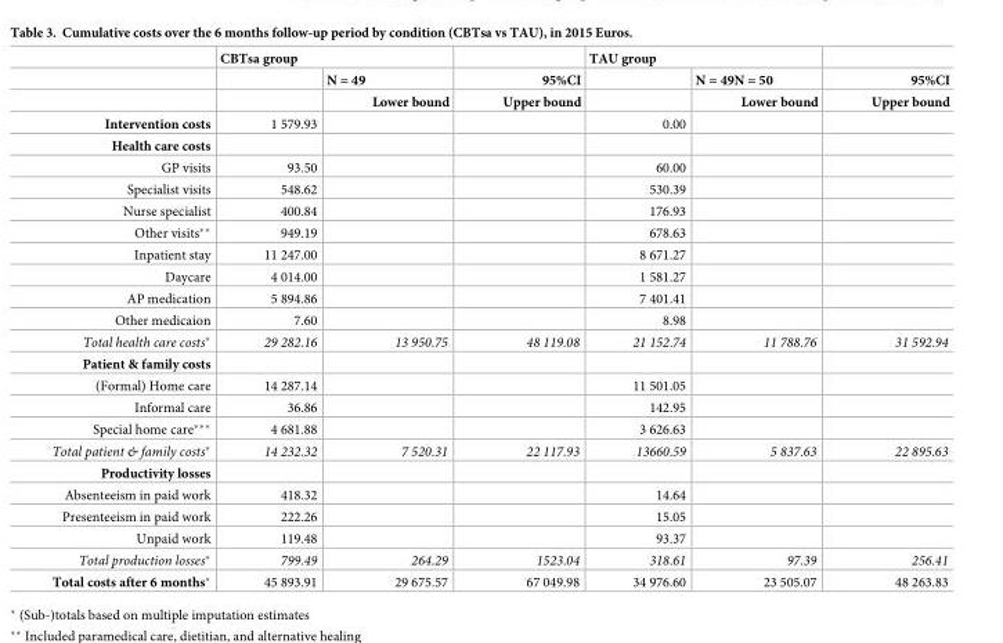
<table><thead><tr><td rowspan="3"></td><td colspan="2">CBTsa group</td><td rowspan="3">95%CI Upper bound</td><td colspan="2">TAU group</td><td rowspan="3">95%CI Upper bound</td></tr><tr><td rowspan="2"></td><td rowspan="2">N = 49 Lower bound</td><td rowspan="2"></td><td rowspan="2">N = 49N = 50 Lower bound</td></tr><tr></tr></thead><tbody><tr><td>Intervention costs</td><td>1 579.93</td><td></td><td></td><td>0.00</td><td></td><td></td></tr><tr><td colspan="7">Health care costs</td></tr><tr><td>GP visits</td><td>93.50</td><td></td><td></td><td>60.00</td><td></td><td></td></tr><tr><td>Specialist visits</td><td>548.62</td><td></td><td></td><td>530.39</td><td></td><td></td></tr><tr><td>Nurse specialist</td><td>400.84</td><td></td><td></td><td>176.93</td><td></td><td></td></tr><tr><td>Other visits**</td><td>949.19</td><td></td><td></td><td>678.63</td><td></td><td></td></tr><tr><td>Inpatient stay</td><td>11 247.00</td><td></td><td></td><td>8 671.27</td><td></td><td></td></tr><tr><td>Daycare</td><td>4 014.00</td><td></td><td></td><td>1 581.27</td><td></td><td></td></tr><tr><td>AP medication</td><td>5 894.86</td><td></td><td></td><td>7 401.41</td><td></td><td></td></tr><tr><td>Other medicaion</td><td>7.60</td><td></td><td></td><td>8.98</td><td></td><td></td></tr><tr><td>Total health care costs*</td><td>29 282.16</td><td>13 950.75</td><td>48 119.08</td><td>21 152.74</td><td>11 788.76</td><td>31 592.94</td></tr><tr><td colspan="7">Patient &amp; family costs</td></tr><tr><td>(Formal) Home care</td><td>14 287.14</td><td></td><td></td><td>11 501.05</td><td></td><td></td></tr><tr><td>Informal care</td><td>36.86</td><td></td><td></td><td>142.95</td><td></td><td></td></tr><tr><td>Special home care***</td><td>4 681.88</td><td></td><td></td><td>3 626.63</td><td></td><td></td></tr><tr><td>Total patient &amp; family costs*</td><td>14 232.32</td><td>7 520.31</td><td>22 117.93</td><td>13660.59</td><td>5 837.63</td><td>22 895.63</td></tr><tr><td colspan="7">Productivity losses</td></tr><tr><td>Absenteeism in paid work</td><td>418.32</td><td></td><td></td><td>14.64</td><td></td><td></td></tr><tr><td>Presenteeism in paid work</td><td>222.26</td><td></td><td></td><td>15.05</td><td></td><td></td></tr><tr><td>Unpaid work</td><td>119.48</td><td></td><td></td><td>93.37</td><td></td><td></td></tr><tr><td>Total production losses*</td><td>799.49</td><td>264.29</td><td>1523.04</td><td>318.61</td><td>97.39</td><td>256.41</td></tr><tr><td>Total costs after 6 months*</td><td>45 893.91</td><td>29 675.57</td><td>67 049.98</td><td>34 976.60</td><td>23 505.07</td><td>48 263.83</td></tr></tbody></table>